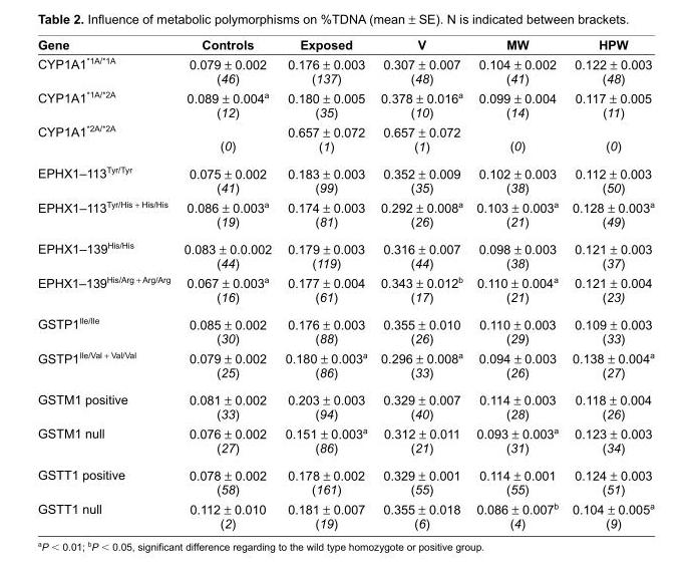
<table><thead><tr><td>Gene</td><td>Controls</td><td>Exposed</td><td>V</td><td>MW</td><td>HPW</td></tr></thead><tbody><tr><td>CYP1A1<sup>*1A/*1A</sup></td><td>0.079 ± 0.002 (46)</td><td>0.176 ± 0.003 (137)</td><td>0.307 ± 0.007 (48)</td><td>0.104 ± 0.002 (41)</td><td>0.122 ± 0.003 (48)</td></tr><tr><td>CYP1A1<sup>*1A/*2A</sup></td><td>0.089 ± 0.004<sup>a</sup> (12)</td><td>0.180 ± 0.005 (35)</td><td>0.378 ± 0.016<sup>a</sup> (10)</td><td>0.099 ± 0.004 (14)</td><td>0.117 ± 0.005 (11)</td></tr><tr><td>CYP1A1<sup>*2A/*2A</sup></td><td>(0)</td><td>0.657 ± 0.072 (1)</td><td>0.657 ± 0.072 (1)</td><td>(0)</td><td>(0)</td></tr><tr><td>EPHX1–113<sup>Tyr/Tyr</sup></td><td>0.075 ± 0.002 (41)</td><td>0.183 ± 0.003 (99)</td><td>0.352 ± 0.009 (35)</td><td>0.102 ± 0.003 (38)</td><td>0.112 ± 0.003 (50)</td></tr><tr><td>EPHX1–113<sup>Tyr/His + His/His</sup></td><td>0.086 ± 0.003<sup>a</sup> (19)</td><td>0.174 ± 0.003 (81)</td><td>0.292 ± 0.008<sup>a</sup> (26)</td><td>0.103 ± 0.003<sup>a</sup> (21)</td><td>0.128 ± 0.003<sup>a</sup> (49)</td></tr><tr><td>EPHX1–139<sup>His/His</sup></td><td>0.083 ± 0.0.002 (44)</td><td>0.179 ± 0.003 (119)</td><td>0.316 ± 0.007 (44)</td><td>0.098 ± 0.003 (38)</td><td>0.121 ± 0.003 (37)</td></tr><tr><td>EPHX1–139<sup>His/Arg + Arg/Arg</sup></td><td>0.067 ± 0.003<sup>a</sup> (16)</td><td>0.177 ± 0.004 (61)</td><td>0.343 ± 0.012<sup>b</sup> (17)</td><td>0.110 ± 0.004<sup>a</sup> (21)</td><td>0.121 ± 0.004 (23)</td></tr><tr><td>GSTP1<sup>Ile/Ile</sup></td><td>0.085 ± 0.002 (30)</td><td>0.176 ± 0.003 (88)</td><td>0.355 ± 0.010 (26)</td><td>0.110 ± 0.003 (29)</td><td>0.109 ± 0.003 (33)</td></tr><tr><td>GSTP1<sup>Ile/Val + Val/Val</sup></td><td>0.079 ± 0.002 (25)</td><td>0.180 ± 0.003<sup>a</sup> (86)</td><td>0.296 ± 0.008<sup>a</sup> (33)</td><td>0.094 ± 0.003 (26)</td><td>0.138 ± 0.004<sup>a</sup> (27)</td></tr><tr><td>GSTM1 positive</td><td>0.081 ± 0.002 (33)</td><td>0.203 ± 0.003 (94)</td><td>0.329 ± 0.007 (40)</td><td>0.114 ± 0.003 (28)</td><td>0.118 ± 0.004 (26)</td></tr><tr><td>GSTM1 null</td><td>0.076 ± 0.002 (27)</td><td>0.151 ± 0.003<sup>a</sup> (86)</td><td>0.312 ± 0.011 (21)</td><td>0.093 ± 0.003<sup>a</sup> (31)</td><td>0.123 ± 0.003 (34)</td></tr><tr><td>GSTT1 positive</td><td>0.078 ± 0.002 (58)</td><td>0.178 ± 0.002 (161)</td><td>0.329 ± 0.001 (55)</td><td>0.114 ± 0.001 (55)</td><td>0.124 ± 0.003 (51)</td></tr><tr><td>GSTT1 null</td><td>0.112 ± 0.010 (2)</td><td>0.181 ± 0.007 (19)</td><td>0.355 ± 0.018 (6)</td><td>0.086 ± 0.007<sup>b</sup> (4)</td><td>0.104 ± 0.005<sup>a</sup> (9)</td></tr></tbody></table>